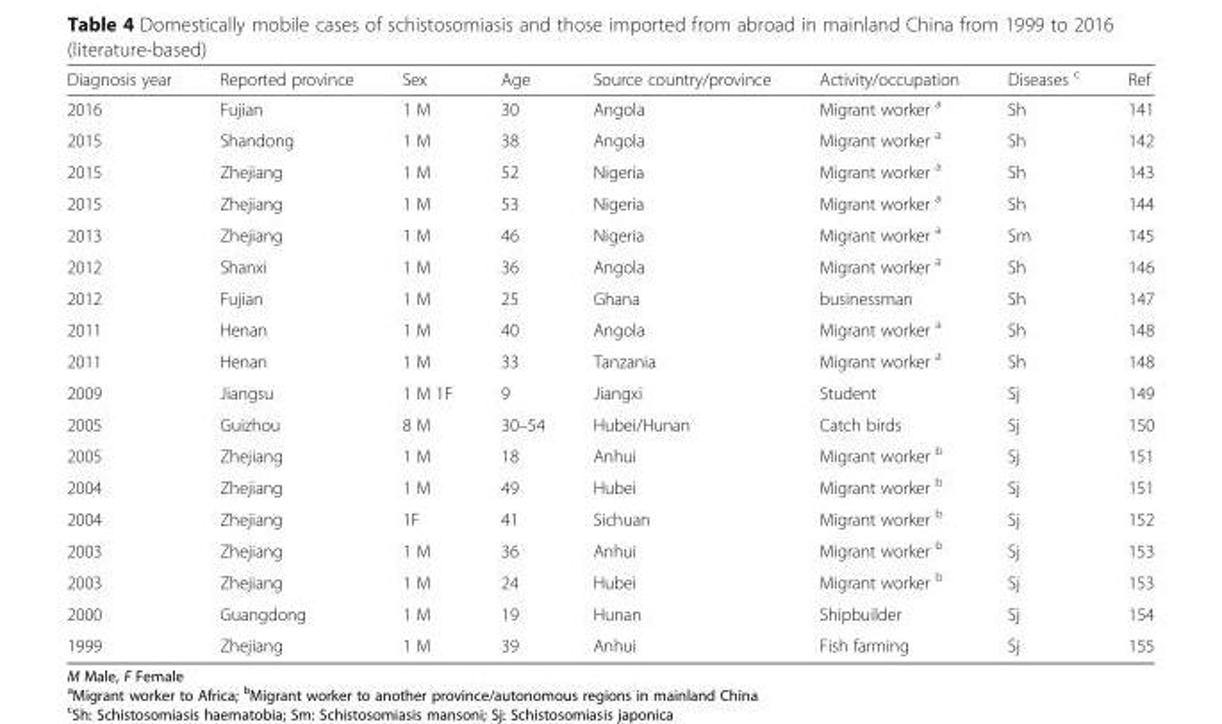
<table><thead><tr><td>Diagnosis year</td><td>Reported province</td><td>Sex</td><td>Age</td><td>Source country/province</td><td>Activity/occupation</td><td>Diseases <sup>c</sup></td><td>Ref</td></tr></thead><tbody><tr><td>2016</td><td>Fujian</td><td>1 M</td><td>30</td><td>Angola</td><td>Migrant worker <sup>a</sup></td><td>Sh</td><td>141</td></tr><tr><td>2015</td><td>Shandong</td><td>1 M</td><td>38</td><td>Angola</td><td>Migrant worker <sup>a</sup></td><td>Sh</td><td>142</td></tr><tr><td>2015</td><td>Zhejiang</td><td>1 M</td><td>52</td><td>Nigeria</td><td>Migrant worker <sup>a</sup></td><td>Sh</td><td>143</td></tr><tr><td>2015</td><td>Zhejiang</td><td>1 M</td><td>53</td><td>Nigeria</td><td>Migrant worker <sup>a</sup></td><td>Sh</td><td>144</td></tr><tr><td>2013</td><td>Zhejiang</td><td>1 M</td><td>46</td><td>Nigeria</td><td>Migrant worker <sup>a</sup></td><td>Sm</td><td>145</td></tr><tr><td>2012</td><td>Shanxi</td><td>1 M</td><td>36</td><td>Angola</td><td>Migrant worker <sup>a</sup></td><td>Sh</td><td>146</td></tr><tr><td>2012</td><td>Fujian</td><td>1 M</td><td>25</td><td>Ghana</td><td>businessman</td><td>Sh</td><td>147</td></tr><tr><td>2011</td><td>Henan</td><td>1 M</td><td>40</td><td>Angola</td><td>Migrant worker <sup>a</sup></td><td>Sh</td><td>148</td></tr><tr><td>2011</td><td>Henan</td><td>1 M</td><td>33</td><td>Tanzania</td><td>Migrant worker <sup>a</sup></td><td>Sh</td><td>148</td></tr><tr><td>2009</td><td>Jiangsu</td><td>1 M 1F</td><td>9</td><td>Jiangxi</td><td>Student</td><td>Sj</td><td>149</td></tr><tr><td>2005</td><td>Guizhou</td><td>8 M</td><td>30–54</td><td>Hubei/Hunan</td><td>Catch birds</td><td>Sj</td><td>150</td></tr><tr><td>2005</td><td>Zhejiang</td><td>1 M</td><td>18</td><td>Anhui</td><td>Migrant worker <sup>b</sup></td><td>Sj</td><td>151</td></tr><tr><td>2004</td><td>Zhejiang</td><td>1 M</td><td>49</td><td>Hubei</td><td>Migrant worker <sup>b</sup></td><td>Sj</td><td>151</td></tr><tr><td>2004</td><td>Zhejiang</td><td>1F</td><td>41</td><td>Sichuan</td><td>Migrant worker <sup>b</sup></td><td>Sj</td><td>152</td></tr><tr><td>2003</td><td>Zhejiang</td><td>1 M</td><td>36</td><td>Anhui</td><td>Migrant worker <sup>b</sup></td><td>Sj</td><td>153</td></tr><tr><td>2003</td><td>Zhejiang</td><td>1 M</td><td>24</td><td>Hubei</td><td>Migrant worker <sup>b</sup></td><td>Sj</td><td>153</td></tr><tr><td>2000</td><td>Guangdong</td><td>1 M</td><td>19</td><td>Hunan</td><td>Shipbuilder</td><td>Sj</td><td>154</td></tr><tr><td>1999</td><td>Zhejiang</td><td>1 M</td><td>39</td><td>Anhui</td><td>Fish farming</td><td>Sj</td><td>155</td></tr></tbody></table>